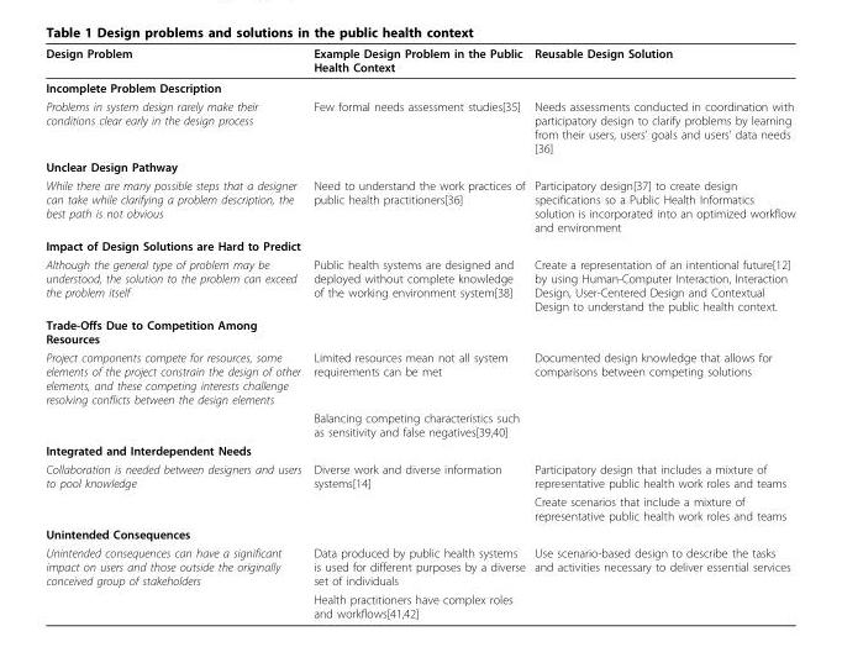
<table><thead><tr><td>Design Problem</td><td>Example Design Problem in the Public Health Context</td><td>Reusable Design Solution</td></tr></thead><tbody><tr><td colspan="3">Incomplete Problem Description</td></tr><tr><td>Problems in system design rarely make their conditions clear early in the design process</td><td>Few formal needs assessment studies[35]</td><td>Needs assessments conducted in coordination with participatory design to clarify problems by learning from their users, users’ goals and users’ data needs [36]</td></tr><tr><td colspan="3">Unclear Design Pathway</td></tr><tr><td>While there are many possible steps that a designer can take while clarifying a problem description, the best path is not obvious</td><td>Need to understand the work practices of public health practitioners[36]</td><td>Participatory design[37] to create design specifications so a Public Health Informatics solution is incorporated into an optimized workflow and environment</td></tr><tr><td colspan="3">Impact of Design Solutions are Hard to Predict</td></tr><tr><td>Although the general type of problem may be understood, the solution to the problem can exceed the problem itself</td><td>Public health systems are designed and deployed without complete knowledge of the working environment system[38]</td><td>Create a representation of an intentional future[12] by using Human-Computer Interaction, Interaction Design, User-Centered Design and Contextual Design to understand the public health context.</td></tr><tr><td colspan="3">Trade-Offs Due to Competition Among Resources</td></tr><tr><td rowspan="2">Project components compete for resources, some elements of the project constrain the design of other elements, and these competing interests challenge resolving conflicts between the design elements</td><td>Limited resources mean not all system requirements can be met</td><td>Documented design knowledge that allows for comparisons between competing solutions</td></tr><tr><td>Balancing competing characteristics such as sensitivity and false negatives[39,40]</td><td></td></tr><tr><td colspan="3">Integrated and Interdependent Needs</td></tr><tr><td rowspan="2">Collaboration is needed between designers and users to pool knowledge</td><td>Diverse work and diverse information systems[14]</td><td>Participatory design that includes a mixture of representative public health work roles and teams</td></tr><tr><td></td><td>Create scenarios that include a mixture of representative public health work roles and teams</td></tr><tr><td colspan="3">Unintended Consequences</td></tr><tr><td rowspan="2">Unintended consequences can have a significant impact on users and those outside the originally conceived group of stakeholders</td><td>Data produced by public health systems is used for different purposes by a diverse set of individuals</td><td>Use scenario-based design to describe the tasks and activities necessary to deliver essential services</td></tr><tr><td>Health practitioners have complex roles and workflows[41,42]</td><td></td></tr></tbody></table>